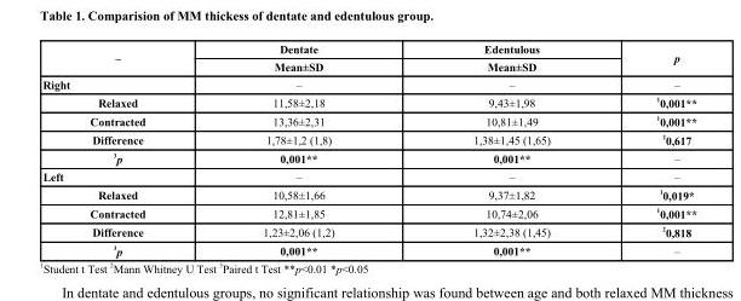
<table><thead><tr><td rowspan="2">–</td><td rowspan="2">Dentate Mean±SD</td><td rowspan="2">Edentulous Mean±SD</td><td rowspan="2">p</td></tr><tr></tr></thead><tbody><tr><td>Right</td><td>–</td><td>–</td><td>–</td></tr><tr><td>Relaxed</td><td>11,58±2,18</td><td>9,43±1,98</td><td><sup>1</sup>0,001**</td></tr><tr><td>Contracted</td><td>13,36±2,31</td><td>10,81±1,49</td><td><sup>1</sup>0,001**</td></tr><tr><td>Difference</td><td>1,78±1,2 (1,8)</td><td>1,38±1,45 (1,65)</td><td><sup>2</sup>0,617</td></tr><tr><td><sup>3</sup>p</td><td>0,001**</td><td>0,001**</td><td>–</td></tr><tr><td>Left</td><td>–</td><td>–</td><td>–</td></tr><tr><td>Relaxed</td><td>10,58±1,66</td><td>9,37±1,82</td><td><sup>1</sup>0,019*</td></tr><tr><td>Contracted</td><td>12,81±1,85</td><td>10,74±2,06</td><td><sup>1</sup>0,001**</td></tr><tr><td>Difference</td><td>1,23±2,06 (1,2)</td><td>1,32±2,38 (1,45)</td><td><sup>2</sup>0,818</td></tr><tr><td><sup>3</sup>p</td><td>0,001**</td><td>0,001**</td><td>–</td></tr></tbody></table>